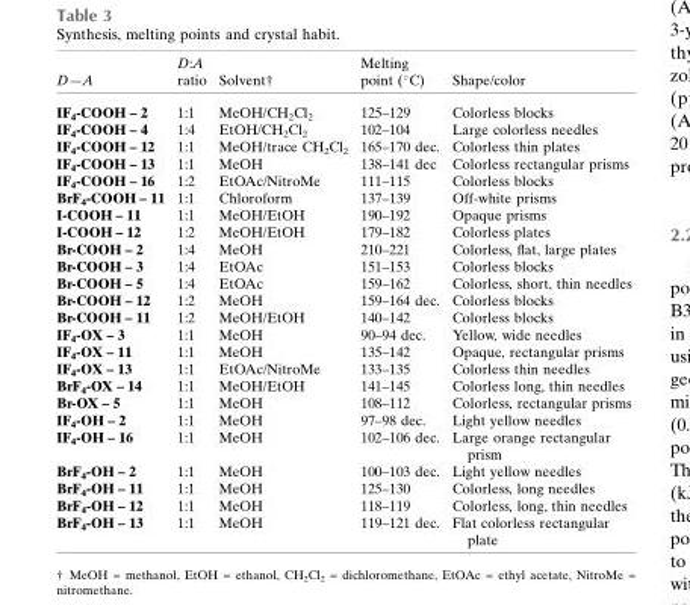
<table><thead><tr><td>D—A</td><td>D:A ratio</td><td>Solvent†</td><td>Melting point (�C)</td><td>Shape/color</td></tr></thead><tbody><tr><td>IF4-COOH – 2</td><td>1:1</td><td>MeOH/CH<sub>2</sub>Cl<sub>2</sub></td><td>125–129</td><td>Colorless blocks</td></tr><tr><td>IF4-COOH – 4</td><td>1:4</td><td>EtOH/CH<sub>2</sub>Cl<sub>2</sub></td><td>102–104</td><td>Large colorless needles</td></tr><tr><td>IF4-COOH – 12</td><td>1:1</td><td>MeOH/trace CH<sub>2</sub>Cl<sub>2</sub></td><td>165–170 dec.</td><td>Colorless thin plates</td></tr><tr><td>IF4-COOH – 13</td><td>1:1</td><td>MeOH</td><td>138–141 dec</td><td>Colorless rectangular prisms</td></tr><tr><td>IF4-COOH – 16</td><td>1:2</td><td>EtOAc/NitroMe</td><td>111–115</td><td>Colorless blocks</td></tr><tr><td>BrF4-COOH – 11</td><td>1:1</td><td>Chloroform</td><td>137–139</td><td>Off-white prisms</td></tr><tr><td>I-COOH – 11</td><td>1:1</td><td>MeOH/EtOH</td><td>190–192</td><td>Opaque prisms</td></tr><tr><td>I-COOH – 12</td><td>1:2</td><td>MeOH/EtOH</td><td>179–182</td><td>Colorless plates</td></tr><tr><td>Br-COOH – 2</td><td>1:4</td><td>MeOH</td><td>210–221</td><td>Colorless, flat, large plates</td></tr><tr><td>Br-COOH – 3</td><td>1:4</td><td>EtOAc</td><td>151–153</td><td>Colorless blocks</td></tr><tr><td>Br-COOH – 5</td><td>1:4</td><td>EtOAc</td><td>159–162</td><td>Colorless, short, thin needles</td></tr><tr><td>Br-COOH – 12</td><td>1:2</td><td>MeOH</td><td>159–164 dec.</td><td>Colorless blocks</td></tr><tr><td>Br-COOH – 11</td><td>1:2</td><td>MeOH/EtOH</td><td>140–142</td><td>Colorless blocks</td></tr><tr><td>IF4-OX – 3</td><td>1:1</td><td>MeOH</td><td>90–94 dec.</td><td>Yellow, wide needles</td></tr><tr><td>IF4-OX – 11</td><td>1:1</td><td>MeOH</td><td>135–142</td><td>Opaque, rectangular prisms</td></tr><tr><td>IF4-OX – 13</td><td>1:1</td><td>EtOAc/NitroMe</td><td>133–135</td><td>Colorless thin needles</td></tr><tr><td>BrF4-OX – 14</td><td>1:1</td><td>MeOH/EtOH</td><td>141–145</td><td>Colorless long, thin needles</td></tr><tr><td>Br-OX – 5</td><td>1:1</td><td>MeOH</td><td>108–112</td><td>Colorless, rectangular prisms</td></tr><tr><td>IF4-OH – 2</td><td>1:1</td><td>MeOH</td><td>97–98 dec.</td><td>Light yellow needles</td></tr><tr><td>IF4-OH – 16</td><td>1:1</td><td>MeOH</td><td>102–106 dec.</td><td>Large orange rectangular prism</td></tr><tr><td>BrF4-OH – 2</td><td>1:1</td><td>MeOH</td><td>100–103 dec.</td><td>Light yellow needles</td></tr><tr><td>BrF4-OH – 11</td><td>1:1</td><td>MeOH</td><td>125–130</td><td>Colorless, long needles</td></tr><tr><td>BrF4-OH – 12</td><td>1:1</td><td>MeOH</td><td>118–119</td><td>Colorless, long, thin needles</td></tr><tr><td>BrF4-OH – 13</td><td>1:1</td><td>MeOH</td><td>119–121 dec.</td><td>Flat colorless rectangular plate</td></tr></tbody></table>